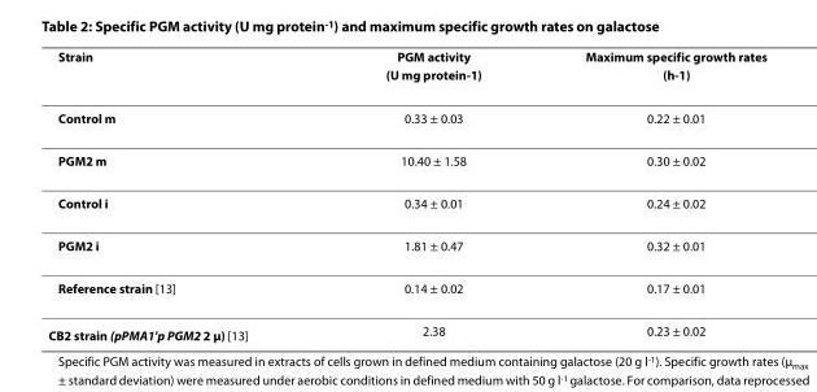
<table><thead><tr><td>Strain</td><td>PGM activity (U mg protein<sup>-1</sup>)</td><td>Maximum specific growth rates (h<sup>-1</sup>)</td></tr></thead><tbody><tr><td>Control m</td><td>0.33 ± 0.03</td><td>0.22 ± 0.01</td></tr><tr><td>PGM2 m</td><td>10.40 ± 1.58</td><td>0.30 ± 0.02</td></tr><tr><td>Control i</td><td>0.34 ± 0.01</td><td>0.24 ± 0.02</td></tr><tr><td>PGM2 i</td><td>1.81 ± 0.47</td><td>0.32 ± 0.01</td></tr><tr><td>Reference strain [13]</td><td>0.14 ± 0.02</td><td>0.17 ± 0.01</td></tr><tr><td>CB2 strain (pPMA1&#x27;p PGM2 2 μ) [13]</td><td>2.38</td><td>0.23 ± 0.02</td></tr></tbody></table>